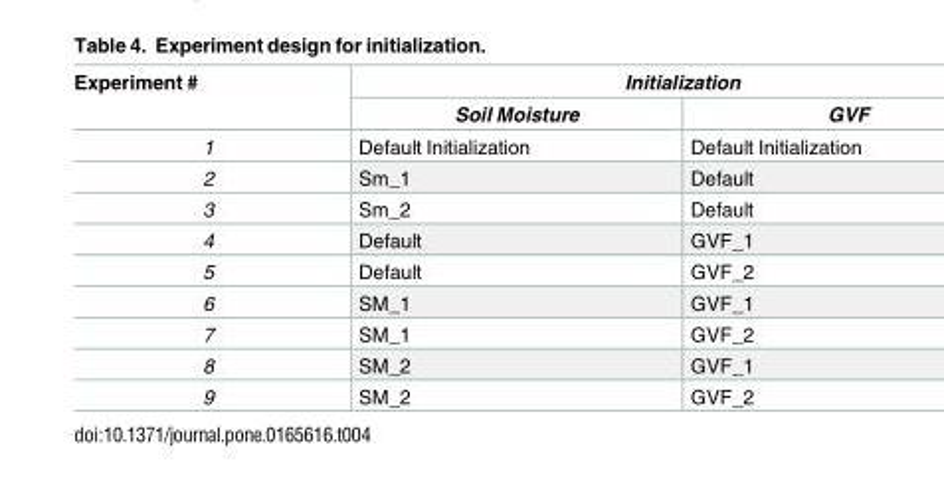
<table><thead><tr><td rowspan="2">Experiment #</td><td colspan="2">Initialization</td></tr><tr><td>Soil Moisture</td><td>GVF</td></tr></thead><tbody><tr><td>1</td><td>Default Initialization</td><td>Default Initialization</td></tr><tr><td>2</td><td>Sm_1</td><td>Default</td></tr><tr><td>3</td><td>Sm_2</td><td>Default</td></tr><tr><td>4</td><td>Default</td><td>GVF_1</td></tr><tr><td>5</td><td>Default</td><td>GVF_2</td></tr><tr><td>6</td><td>SM_1</td><td>GVF_1</td></tr><tr><td>7</td><td>SM_1</td><td>GVF_2</td></tr><tr><td>8</td><td>SM_2</td><td>GVF_1</td></tr><tr><td>9</td><td>SM_2</td><td>GVF_2</td></tr></tbody></table>